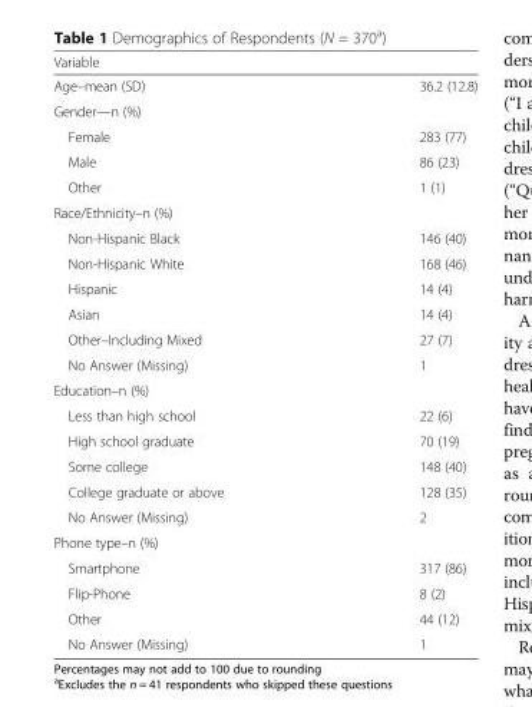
<table><thead><tr><td>Variable</td><td></td></tr></thead><tbody><tr><td>Age–mean (SD)</td><td>36.2 (12.8)</td></tr><tr><td colspan="2">Gender—n (%)</td></tr><tr><td>Female</td><td>283 (77)</td></tr><tr><td>Male</td><td>86 (23)</td></tr><tr><td>Other</td><td>1 (1)</td></tr><tr><td colspan="2">Race/Ethnicity–n (%)</td></tr><tr><td>Non-Hispanic Black</td><td>146 (40)</td></tr><tr><td>Non-Hispanic White</td><td>168 (46)</td></tr><tr><td>Hispanic</td><td>14 (4)</td></tr><tr><td>Asian</td><td>14 (4)</td></tr><tr><td>Other–Including Mixed</td><td>27 (7)</td></tr><tr><td>No Answer (Missing)</td><td>1</td></tr><tr><td colspan="2">Education–n (%)</td></tr><tr><td>Less than high school</td><td>22 (6)</td></tr><tr><td>High school graduate</td><td>70 (19)</td></tr><tr><td>Some college</td><td>148 (40)</td></tr><tr><td>College graduate or above</td><td>128 (35)</td></tr><tr><td>No Answer (Missing)</td><td>2</td></tr><tr><td colspan="2">Phone type–n (%)</td></tr><tr><td>Smartphone</td><td>317 (86)</td></tr><tr><td>Flip-Phone</td><td>8 (2)</td></tr><tr><td>Other</td><td>44 (12)</td></tr><tr><td>No Answer (Missing)</td><td>1</td></tr></tbody></table>